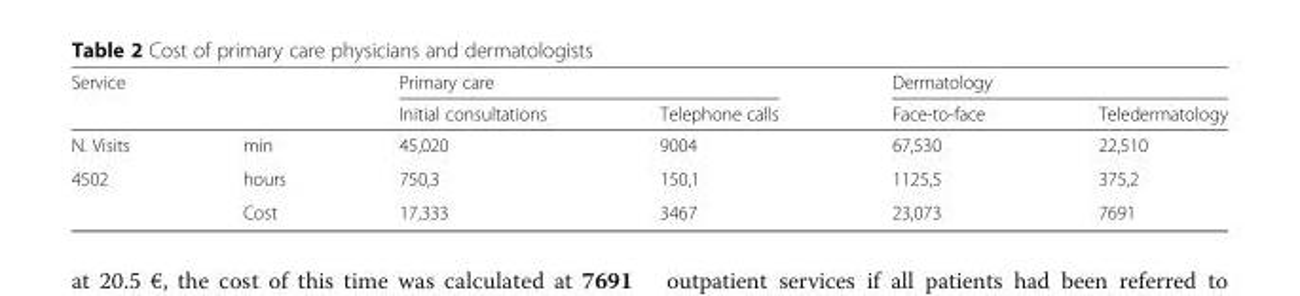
<table><thead><tr><td rowspan="2" colspan="2">Service</td><td colspan="2">Primary care</td><td colspan="2">Dermatology</td></tr><tr><td rowspan="2">Initial consultations 45,020</td><td rowspan="2">Telephone calls 9004</td><td rowspan="2">Face-to-face 67,530</td><td rowspan="2">Teledermatology 22,510</td></tr><tr><td>N. Visits</td><td>min</td></tr></thead><tbody><tr><td rowspan="2">4502</td><td>hours</td><td>750,3</td><td>150,1</td><td>1125,5</td><td>375,2</td></tr><tr><td>Cost</td><td>17,333</td><td>3467</td><td>23,073</td><td>7691</td></tr></tbody></table>